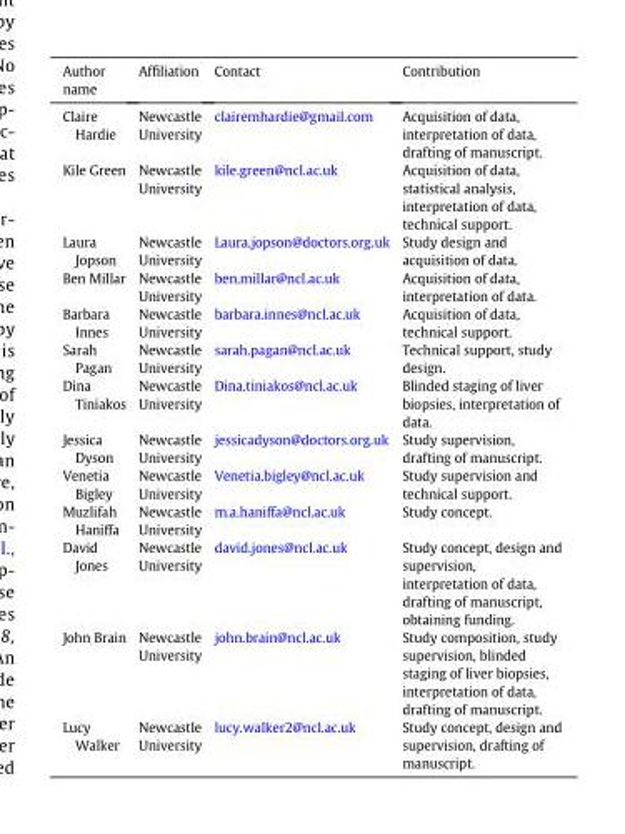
<table><thead><tr><td>Author name</td><td>Affiliation</td><td>Contact</td><td>Contribution</td></tr></thead><tbody><tr><td>Claire Hardie</td><td>Newcastle University</td><td>clairemhardie@gmail.com</td><td>Acquisition of data, interpretation of data, drafting of manuscript.</td></tr><tr><td>Kile Green</td><td>Newcastle University</td><td>kile.green@ncl.ac.uk</td><td>Acquisition of data, statistical analysis, interpretation of data, technical support.</td></tr><tr><td>Laura Jopson</td><td>Newcastle University</td><td>Laura.jopson@doctors.org.uk</td><td>Study design and acquisition of data.</td></tr><tr><td>Ben Millar</td><td>Newcastle University</td><td>ben.millar@ncl.ac.uk</td><td>Acquisition of data, interpretation of data.</td></tr><tr><td>Barbara Innes</td><td>Newcastle University</td><td>barbara.innes@ncl.ac.uk</td><td>Acquisition of data, technical support.</td></tr><tr><td>Sarah Pagan</td><td>Newcastle University</td><td>sarah.pagan@ncl.ac.uk</td><td>Technical support, study design.</td></tr><tr><td>Dina Tiniakos</td><td>Newcastle University</td><td>Dina.tiniakos@ncl.ac.uk</td><td>Blinded staging of liver biopsies, interpretation of data.</td></tr><tr><td>Jessica Dyson</td><td>Newcastle University</td><td>jessicadyson@doctors.org.uk</td><td>Study supervision, drafting of manuscript.</td></tr><tr><td>Venetia Bigley</td><td>Newcastle University</td><td>Venetia.bigley@ncl.ac.uk</td><td>Study supervision and technical support.</td></tr><tr><td>Muzlifah Haniffa</td><td>Newcastle University</td><td>m.a.haniffa@ncl.ac.uk</td><td>Study concept.</td></tr><tr><td>David Jones</td><td>Newcastle University</td><td>david.jones@ncl.ac.uk</td><td>Study concept, design and supervision, interpretation of data, drafting of manuscript, obtaining funding.</td></tr><tr><td>John Brain</td><td>Newcastle University</td><td>john.brain@ncl.ac.uk</td><td>Study composition, study supervision, blinded staging of liver biopsies, interpretation of data, drafting of manuscript.</td></tr><tr><td>Lucy Walker</td><td>Newcastle University</td><td>lucy.walker2@ncl.ac.uk</td><td>Study concept, design and supervision, drafting of manuscript.</td></tr></tbody></table>